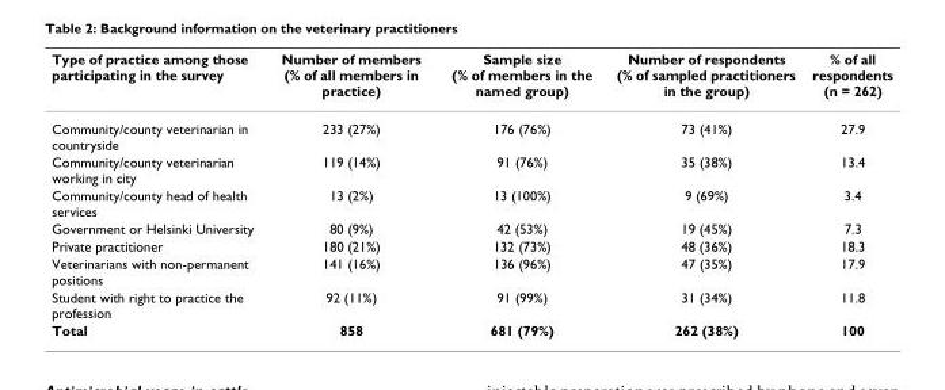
<table><thead><tr><td>Type of practice among those participating in the survey</td><td>Number of members (% of all members in practice)</td><td>Sample size (% of members in the named group)</td><td>Number of respondents (% of sampled practitioners in the group)</td><td>% of all respondents (n = 262)</td></tr></thead><tbody><tr><td>Community/county veterinarian in countryside</td><td>233 (27%)</td><td>176 (76%)</td><td>73 (41%)</td><td>27.9</td></tr><tr><td>Community/county veterinarian working in city</td><td>119 (14%)</td><td>91 (76%)</td><td>35 (38%)</td><td>13.4</td></tr><tr><td>Community/county head of health services</td><td>13 (2%)</td><td>13 (100%)</td><td>9 (69%)</td><td>3.4</td></tr><tr><td>Government or Helsinki University</td><td>80 (9%)</td><td>42 (53%)</td><td>19 (45%)</td><td>7.3</td></tr><tr><td>Private practitioner</td><td>180 (21%)</td><td>132 (73%)</td><td>48 (36%)</td><td>18.3</td></tr><tr><td>Veterinarians with non-permanent positions</td><td>141 (16%)</td><td>136 (96%)</td><td>47 (35%)</td><td>17.9</td></tr><tr><td>Student with right to practice the profession</td><td>92 (11%)</td><td>91 (99%)</td><td>31 (34%)</td><td>11.8</td></tr><tr><td>Total</td><td>858</td><td>681 (79%)</td><td>262 (38%)</td><td>100</td></tr></tbody></table>